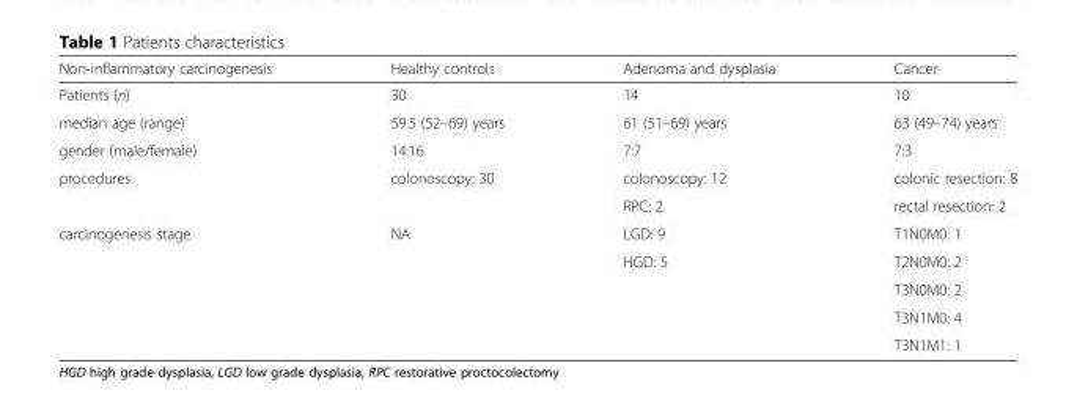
<table><thead><tr><td>Non-inflammatory carcinogenesis</td><td>Healthy controls</td><td>Adenoma and dysplasia</td><td>Cancer</td></tr></thead><tbody><tr><td>Patients (n)</td><td>30</td><td>14</td><td>10</td></tr><tr><td>median age (range)</td><td>59.5 (52–69) years</td><td>61 (51–69) years</td><td>63 (49–74) years</td></tr><tr><td>gender (male/female)</td><td>14:16</td><td>7:7</td><td>7:3</td></tr><tr><td rowspan="2">procedures</td><td>colonoscopy: 30</td><td>colonoscopy: 12</td><td>colonic resection: 8</td></tr><tr><td></td><td>RPC: 2</td><td>rectal resection: 2</td></tr><tr><td rowspan="5">carcinogenesis stage</td><td>NA</td><td>LGD: 9</td><td>T1N0M0: 1</td></tr><tr><td></td><td>HGD: 5</td><td>T2N0M0: 2</td></tr><tr><td></td><td></td><td>T3N0M0: 2</td></tr><tr><td></td><td></td><td>T3N1M0: 4</td></tr><tr><td></td><td></td><td>T3N1M1: 1</td></tr></tbody></table>